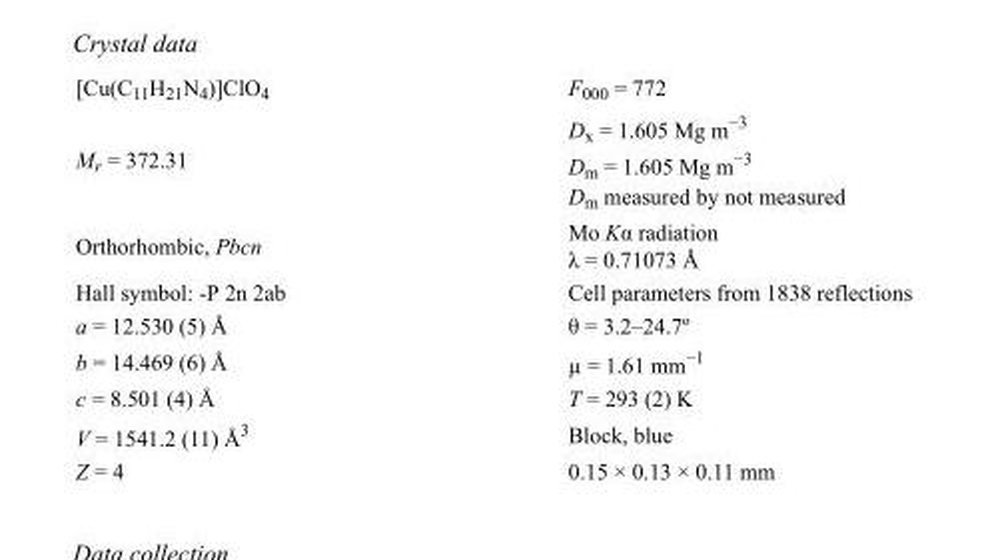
<table><tbody><tr><td>[Cu(C<sub>11</sub>H<sub>21</sub>N<sub>4</sub>)]ClO<sub>4</sub></td><td>F000 = 772</td></tr><tr><td>M<sub>r</sub> = 372.31</td><td>D<sub>x</sub> = 1.605 Mg m<sup>−3</sup> D<sub>m</sub> = 1.605 Mg m<sup>−3</sup> D<sub>m</sub> measured by not measured</td></tr><tr><td>Orthorhombic, Pbcn</td><td>Mo Kα radiation λ = 0.71073 Å</td></tr><tr><td>Hall symbol: -P 2n 2ab</td><td>Cell parameters from 1838 reflections</td></tr><tr><td>a = 12.530 (5) Å</td><td>θ = 3.2–24.7º</td></tr><tr><td>b = 14.469 (6) Å</td><td>µ = 1.61 mm<sup>−1</sup></td></tr><tr><td>c = 8.501 (4) Å</td><td>T = 293 (2) K</td></tr><tr><td>V = 1541.2 (11) Å<sup>3</sup></td><td>Block, blue</td></tr><tr><td>Z = 4</td><td>0.15 × 0.13 × 0.11 mm</td></tr></tbody></table>